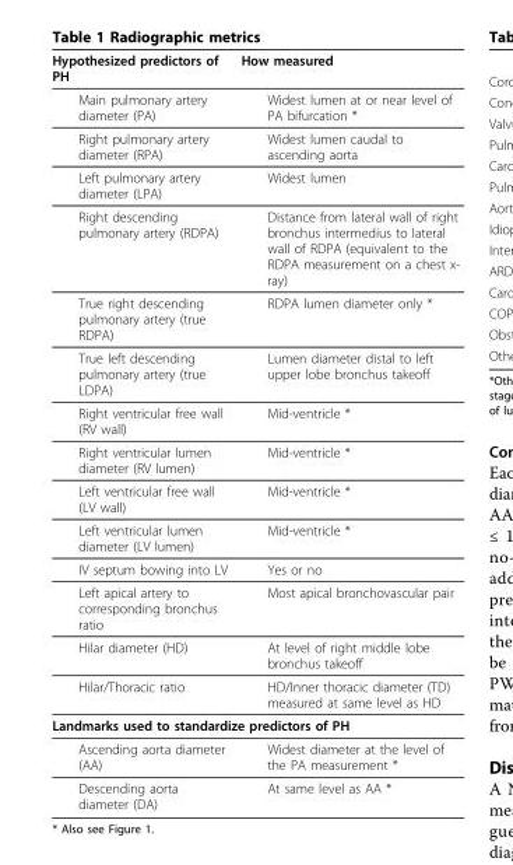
<table><thead><tr><td>Hypothesized predictors of PH</td><td>How measured</td></tr></thead><tbody><tr><td>Main pulmonary artery diameter (PA)</td><td>Widest lumen at or near level of PA bifurcation *</td></tr><tr><td>Right pulmonary artery diameter (RPA)</td><td>Widest lumen caudal to ascending aorta</td></tr><tr><td>Left pulmonary artery diameter (LPA)</td><td>Widest lumen</td></tr><tr><td>Right descending pulmonary artery (RDPA)</td><td>Distance from lateral wall of right bronchus intermedius to lateral wall of RDPA (equivalent to the RDPA measurement on a chest x- ray)</td></tr><tr><td>True right descending pulmonary artery (true RDPA)</td><td>RDPA lumen diameter only *</td></tr><tr><td>True left descending pulmonary artery (true LDPA)</td><td>Lumen diameter distal to left upper lobe bronchus takeoff</td></tr><tr><td>Right ventricular free wall (RV wall)</td><td>Mid-ventricle *</td></tr><tr><td>Right ventricular lumen diameter (RV lumen)</td><td>Mid-ventricle *</td></tr><tr><td>Left ventricular free wall (LV wall)</td><td>Mid-ventricle *</td></tr><tr><td>Left ventricular lumen diameter (LV lumen)</td><td>Mid-ventricle *</td></tr><tr><td>IV septum bowing into LV</td><td>Yes or no</td></tr><tr><td>Left apical artery to corresponding bronchus ratio</td><td>Most apical bronchovascular pair</td></tr><tr><td>Hilar diameter (HD)</td><td>At level of right middle lobe bronchus takeoff</td></tr><tr><td>Hilar/Thoracic ratio</td><td>HD/Inner thoracic diameter (TD) measured at same level as HD</td></tr><tr><td colspan="2">Landmarks used to standardize predictors of PH</td></tr><tr><td>Ascending aorta diameter (AA)</td><td>Widest diameter at the level of the PA measurement *</td></tr><tr><td>Descending aorta diameter (DA)</td><td>At same level as AA *</td></tr></tbody></table>